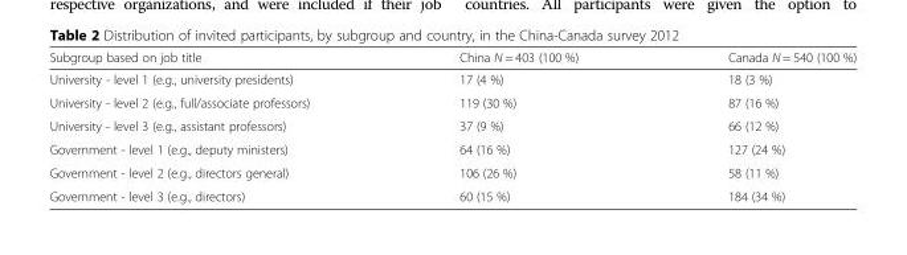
<table><thead><tr><td>Subgroup based on job title</td><td>China N = 403 (100 %)</td><td>Canada N = 540 (100 %)</td></tr></thead><tbody><tr><td>University - level 1 (e.g., university presidents)</td><td>17 (4 %)</td><td>18 (3 %)</td></tr><tr><td>University - level 2 (e.g., full/associate professors)</td><td>119 (30 %)</td><td>87 (16 %)</td></tr><tr><td>University - level 3 (e.g., assistant professors)</td><td>37 (9 %)</td><td>66 (12 %)</td></tr><tr><td>Government - level 1 (e.g., deputy ministers)</td><td>64 (16 %)</td><td>127 (24 %)</td></tr><tr><td>Government - level 2 (e.g., directors general)</td><td>106 (26 %)</td><td>58 (11 %)</td></tr><tr><td>Government - level 3 (e.g., directors)</td><td>60 (15 %)</td><td>184 (34 %)</td></tr></tbody></table>